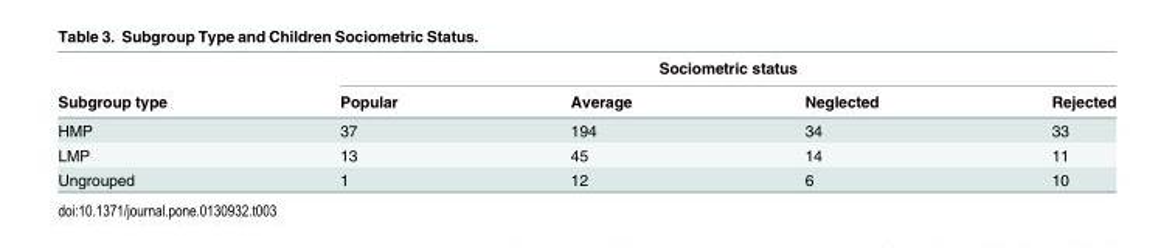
<table><thead><tr><td rowspan="2">Subgroup type</td><td colspan="4">Sociometric status</td></tr><tr><td>Popular</td><td>Average</td><td>Neglected</td><td>Rejected</td></tr></thead><tbody><tr><td>HMP</td><td>37</td><td>194</td><td>34</td><td>33</td></tr><tr><td>LMP</td><td>13</td><td>45</td><td>14</td><td>11</td></tr><tr><td>Ungrouped</td><td>1</td><td>12</td><td>6</td><td>10</td></tr></tbody></table>